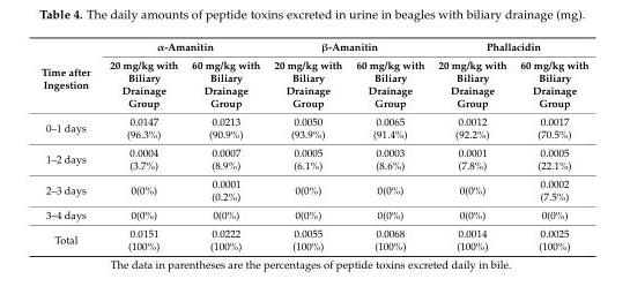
<table><thead><tr><td rowspan="2">Time after Ingestion</td><td colspan="2">α-Amanitin</td><td colspan="2">β-Amanitin</td><td colspan="2">Phallacidin</td></tr><tr><td>20 mg/kg with Biliary Drainage Group</td><td>60 mg/kg with Biliary Drainage Group</td><td>20 mg/kg with Biliary Drainage Group</td><td>60 mg/kg with Biliary Drainage Group</td><td>20 mg/kg with Biliary Drainage Group</td><td>60 mg/kg with Biliary Drainage Group</td></tr></thead><tbody><tr><td>0–1 days</td><td>0.0147 (96.3%)</td><td>0.0213 (90.9%)</td><td>0.0050 (93.9%)</td><td>0.0065 (91.4%)</td><td>0.0012 (92.2%)</td><td>0.0017 (70.5%)</td></tr><tr><td>1–2 days</td><td>0.0004 (3.7%)</td><td>0.0007 (8.9%)</td><td>0.0005 (6.1%)</td><td>0.0003 (8.6%)</td><td>0.0001 (7.8%)</td><td>0.0005 (22.1%)</td></tr><tr><td>2–3 days</td><td>0(0%)</td><td>0.0001 (0.2%)</td><td>0(0%)</td><td>0(0%)</td><td>0(0%)</td><td>0.0002 (7.5%)</td></tr><tr><td>3–4 days</td><td>0(0%)</td><td>0(0%)</td><td>0(0%)</td><td>0(0%)</td><td>0(0%)</td><td>0(0%)</td></tr><tr><td>Total</td><td>0.0151 (100%)</td><td>0.0222 (100%)</td><td>0.0055 (100%)</td><td>0.0068 (100%)</td><td>0.0014 (100%)</td><td>0.0025 (100%)</td></tr></tbody></table>